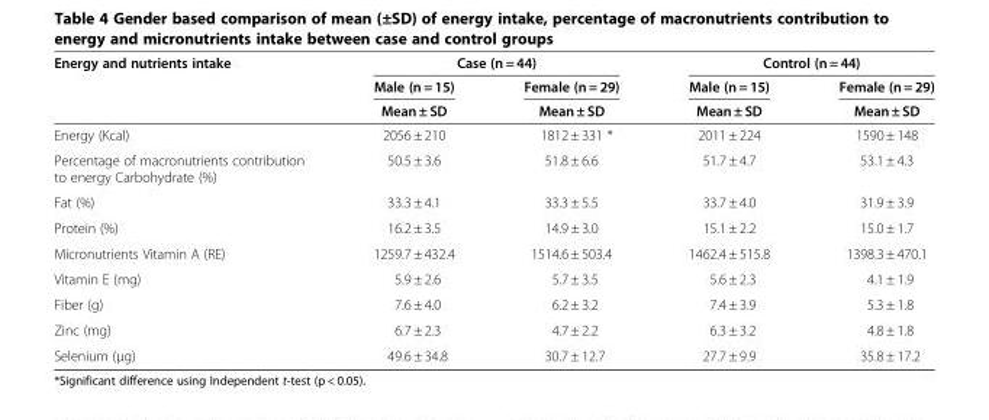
<table><thead><tr><td rowspan="3">Energy and nutrients intake</td><td colspan="2">Case (n = 44)</td><td colspan="2">Control (n = 44)</td></tr><tr><td rowspan="2">Male (n = 15) Mean ± SD</td><td rowspan="2">Female (n = 29) Mean ± SD</td><td rowspan="2">Male (n = 15) Mean ± SD</td><td rowspan="2">Female (n = 29) Mean ± SD</td></tr><tr></tr></thead><tbody><tr><td>Energy (Kcal)</td><td>2056 ± 210</td><td>1812 ± 331 *</td><td>2011 ± 224</td><td>1590 ± 148</td></tr><tr><td>Percentage of macronutrients contribution to energy Carbohydrate (%)</td><td>50.5 ± 3.6</td><td>51.8 ± 6.6</td><td>51.7 ± 4.7</td><td>53.1 ± 4.3</td></tr><tr><td>Fat (%)</td><td>33.3 ± 4.1</td><td>33.3 ± 5.5</td><td>33.7 ± 4.0</td><td>31.9 ± 3.9</td></tr><tr><td>Protein (%)</td><td>16.2 ± 3.5</td><td>14.9 ± 3.0</td><td>15.1 ± 2.2</td><td>15.0 ± 1.7</td></tr><tr><td>Micronutrients Vitamin A (RE)</td><td>1259.7 ± 432.4</td><td>1514.6 ± 503.4</td><td>1462.4 ± 515.8</td><td>1398.3 ± 470.1</td></tr><tr><td>Vitamin E (mg)</td><td>5.9 ± 2.6</td><td>5.7 ± 3.5</td><td>5.6 ± 2.3</td><td>4.1 ± 1.9</td></tr><tr><td>Fiber (g)</td><td>7.6 ± 4.0</td><td>6.2 ± 3.2</td><td>7.4 ± 3.9</td><td>5.3 ± 1.8</td></tr><tr><td>Zinc (mg)</td><td>6.7 ± 2.3</td><td>4.7 ± 2.2</td><td>6.3 ± 3.2</td><td>4.8 ± 1.8</td></tr><tr><td>Selenium (μg)</td><td>49.6 ± 34.8</td><td>30.7 ± 12.7</td><td>27.7 ± 9.9</td><td>35.8 ± 17.2</td></tr></tbody></table>